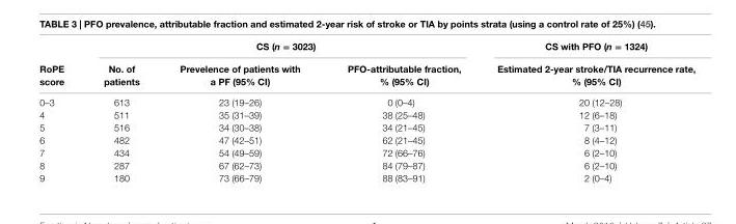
<table><thead><tr><td rowspan="2">RoPe score</td><td colspan="3">CS (n = 3023)</td><td rowspan="2">CS with PFO (n = 1324) estimated 2-year stroke/TiA recurrence rate, % (95% Ci)</td></tr><tr><td>No. of patients</td><td>Prevelence of patients with a PF (95% Ci)</td><td>PFO-attributable fraction, % (95% Ci)</td></tr></thead><tbody><tr><td>0–3</td><td>613</td><td>23 (19–26)</td><td>0 (0–4)</td><td>20 (12–28)</td></tr><tr><td>4</td><td>511</td><td>35 (31–39)</td><td>38 (25–48)</td><td>12 (6–18)</td></tr><tr><td>5</td><td>516</td><td>34 (30–38)</td><td>34 (21–45)</td><td>7 (3–11)</td></tr><tr><td>6</td><td>482</td><td>47 (42–51)</td><td>62 (21–45)</td><td>8 (4–12)</td></tr><tr><td>7</td><td>434</td><td>54 (49–59)</td><td>72 (66–76)</td><td>6 (2–10)</td></tr><tr><td>8</td><td>287</td><td>67 (62–73)</td><td>84 (79–87)</td><td>6 (2–10)</td></tr><tr><td>9</td><td>180</td><td>73 (66–79)</td><td>88 (83–91)</td><td>2 (0–4)</td></tr></tbody></table>